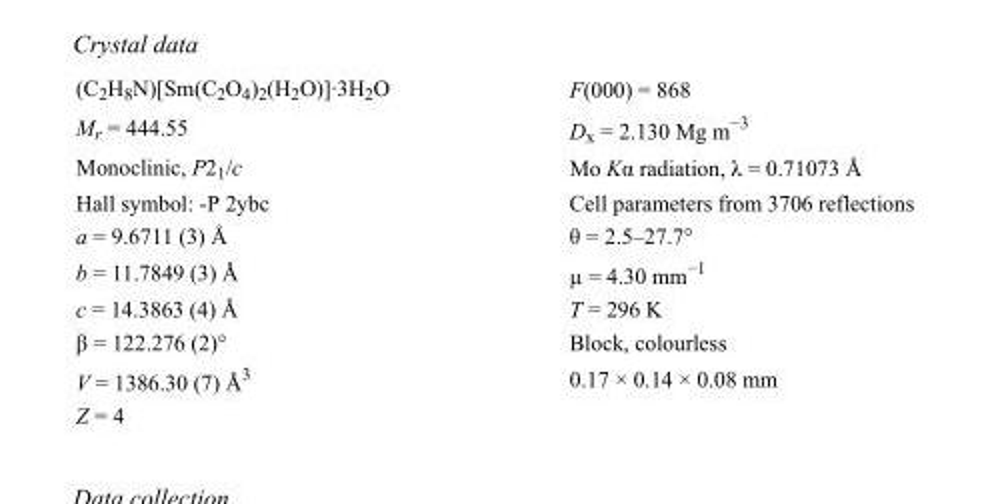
<table><tbody><tr><td>(C<sub>2</sub>H<sub>8</sub>N)[Sm(C<sub>2</sub>O<sub>4</sub>)<sub>2</sub>(H<sub>2</sub>O)]·3H<sub>2</sub>O</td><td>F(000) = 868</td></tr><tr><td>M<sub>r</sub> = 444.55</td><td>D<sub>x</sub> = 2.130 Mg m<sup>−3</sup></td></tr><tr><td>Monoclinic, P2<sub>1</sub>/c</td><td>Mo Kα radiation, λ = 0.71073 Å</td></tr><tr><td>Hall symbol: -P 2ybc</td><td>Cell parameters from 3706 reflections</td></tr><tr><td>a = 9.6711 (3) Å</td><td>θ = 2.5–27.7°</td></tr><tr><td>b = 11.7849 (3) Å</td><td>µ = 4.30 mm<sup>−1</sup></td></tr><tr><td>c = 14.3863 (4) Å</td><td>T = 296 K</td></tr><tr><td>β = 122.276 (2)°</td><td>Block, colourless</td></tr><tr><td>V = 1386.30 (7) Å<sup>3</sup></td><td>0.17 × 0.14 × 0.08 mm</td></tr><tr><td>Z = 4</td><td></td></tr></tbody></table>